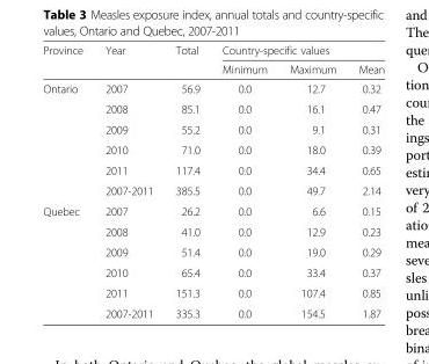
<table><thead><tr><td rowspan="2">Province</td><td rowspan="2">Year</td><td rowspan="2">Total</td><td colspan="3">Country-specific values</td></tr><tr><td>Minimum</td><td>Maximum</td><td>Mean</td></tr></thead><tbody><tr><td rowspan="6">Ontario</td><td>2007</td><td>56.9</td><td>0.0</td><td>12.7</td><td>0.32</td></tr><tr><td>2008</td><td>85.1</td><td>0.0</td><td>16.1</td><td>0.47</td></tr><tr><td>2009</td><td>55.2</td><td>0.0</td><td>9.1</td><td>0.31</td></tr><tr><td>2010</td><td>71.0</td><td>0.0</td><td>18.0</td><td>0.39</td></tr><tr><td>2011</td><td>117.4</td><td>0.0</td><td>34.4</td><td>0.65</td></tr><tr><td>2007-2011</td><td>385.5</td><td>0.0</td><td>49.7</td><td>2.14</td></tr><tr><td rowspan="6">Quebec</td><td>2007</td><td>26.2</td><td>0.0</td><td>6.6</td><td>0.15</td></tr><tr><td>2008</td><td>41.0</td><td>0.0</td><td>12.9</td><td>0.23</td></tr><tr><td>2009</td><td>51.4</td><td>0.0</td><td>19.0</td><td>0.29</td></tr><tr><td>2010</td><td>65.4</td><td>0.0</td><td>33.4</td><td>0.37</td></tr><tr><td>2011</td><td>151.3</td><td>0.0</td><td>107.4</td><td>0.85</td></tr><tr><td>2007-2011</td><td>335.3</td><td>0.0</td><td>154.5</td><td>1.87</td></tr></tbody></table>